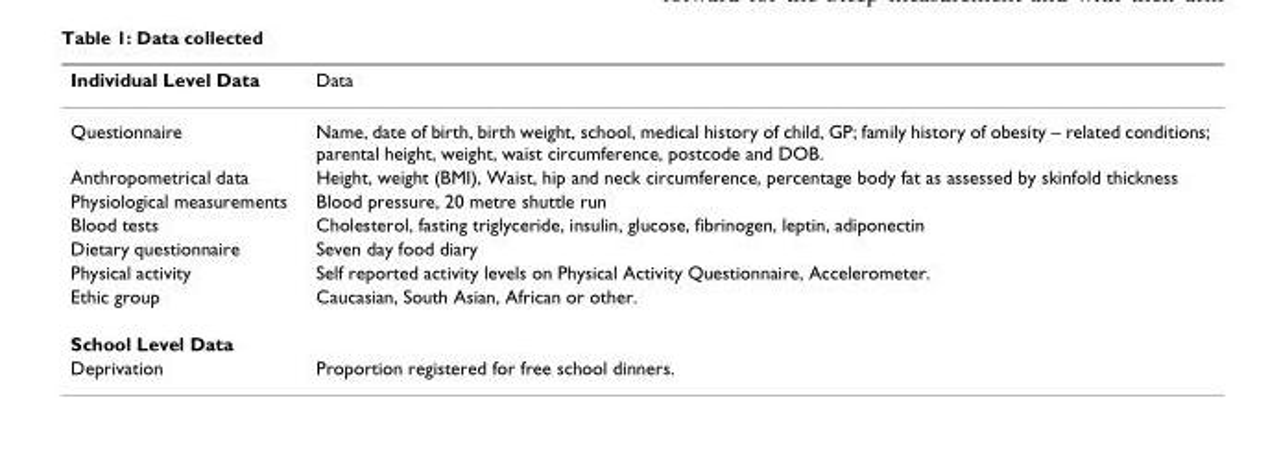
<table><thead><tr><td>Individual Level Data</td><td>Data</td></tr></thead><tbody><tr><td>Questionnaire</td><td>Name, date of birth, birth weight, school, medical history of child, GP; family history of obesity – related conditions; parental height, weight, waist circumference, postcode and DOB.</td></tr><tr><td>Anthropometrical data</td><td>Height, weight (BMI), Waist, hip and neck circumference, percentage body fat as assessed by skinfold thickness</td></tr><tr><td>Physiological measurements</td><td>Blood pressure, 20 metre shuttle run</td></tr><tr><td>Blood tests</td><td>Cholesterol, fasting triglyceride, insulin, glucose, fibrinogen, leptin, adiponectin</td></tr><tr><td>Dietary questionnaire</td><td>Seven day food diary</td></tr><tr><td>Physical activity</td><td>Self reported activity levels on Physical Activity Questionnaire, Accelerometer.</td></tr><tr><td>Ethic group</td><td>Caucasian, South Asian, African or other.</td></tr><tr><td colspan="2">School Level Data</td></tr><tr><td>Deprivation</td><td>Proportion registered for free school dinners.</td></tr></tbody></table>